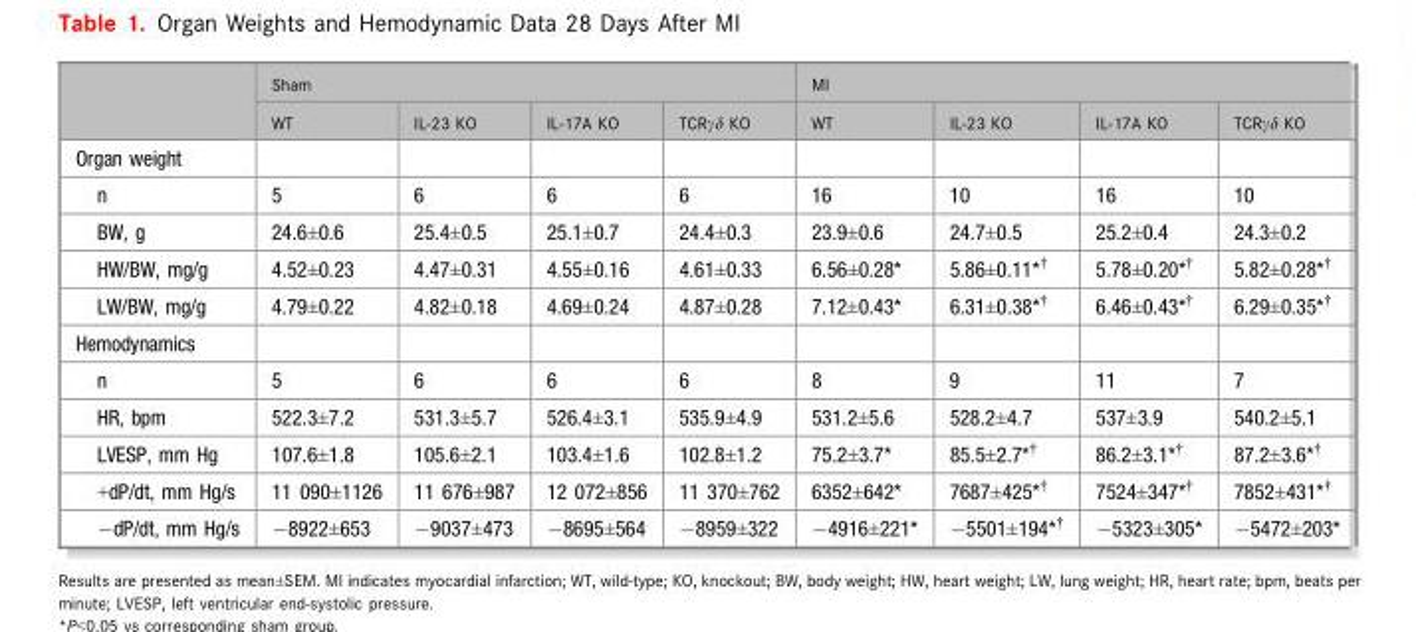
<table><thead><tr><td rowspan="2"></td><td colspan="4">Sham</td><td colspan="4">MI</td></tr><tr><td>WT</td><td>IL-23 KO</td><td>IL-17A KO</td><td>TCRγδ KO</td><td>WT</td><td>IL-23 KO</td><td>IL-17A KO</td><td>TCRγδ KO</td></tr></thead><tbody><tr><td colspan="9">Organ weight</td></tr><tr><td>n</td><td>5</td><td>6</td><td>6</td><td>6</td><td>16</td><td>10</td><td>16</td><td>10</td></tr><tr><td>BW, g</td><td>24.6±0.6</td><td>25.4±0.5</td><td>25.1±0.7</td><td>24.4±0.3</td><td>23.9±0.6</td><td>24.7±0.5</td><td>25.2±0.4</td><td>24.3±0.2</td></tr><tr><td>HW/BW, mg/g</td><td>4.52±0.23</td><td>4.47±0.31</td><td>4.55±0.16</td><td>4.61±0.33</td><td>6.56±0.28*</td><td>5.86±0.11*†</td><td>5.78±0.20*†</td><td>5.82±0.28*†</td></tr><tr><td>LW/BW, mg/g</td><td>4.79±0.22</td><td>4.82±0.18</td><td>4.69±0.24</td><td>4.87±0.28</td><td>7.12±0.43*</td><td>6.31±0.38*†</td><td>6.46±0.43*†</td><td>6.29±0.35*†</td></tr><tr><td colspan="9">Hemodynamics</td></tr><tr><td>n</td><td>5</td><td>6</td><td>6</td><td>6</td><td>8</td><td>9</td><td>11</td><td>7</td></tr><tr><td>HR, bpm</td><td>522.3±7.2</td><td>531.3±5.7</td><td>526.4±3.1</td><td>535.9±4.9</td><td>531.2±5.6</td><td>528.2±4.7</td><td>537±3.9</td><td>540.2±5.1</td></tr><tr><td>LVESP, mm Hg</td><td>107.6±1.8</td><td>105.6±2.1</td><td>103.4±1.6</td><td>102.8±1.2</td><td>75.2±3.7*</td><td>85.5±2.7*†</td><td>86.2±3.1*†</td><td>87.2±3.6*†</td></tr><tr><td>+dP/dt, mm Hg/s</td><td>11 090±1126</td><td>11 676±987</td><td>12 072±856</td><td>11 370±762</td><td>6352±642*</td><td>7687±425*†</td><td>7524±347*†</td><td>7852±431*†</td></tr><tr><td>−dP/dt, mm Hg/s</td><td>−8922±653</td><td>−9037±473</td><td>−8695±564</td><td>−8959±322</td><td>−4916±221*</td><td>−5501±194*†</td><td>−5323±305*</td><td>−5472±203*</td></tr></tbody></table>